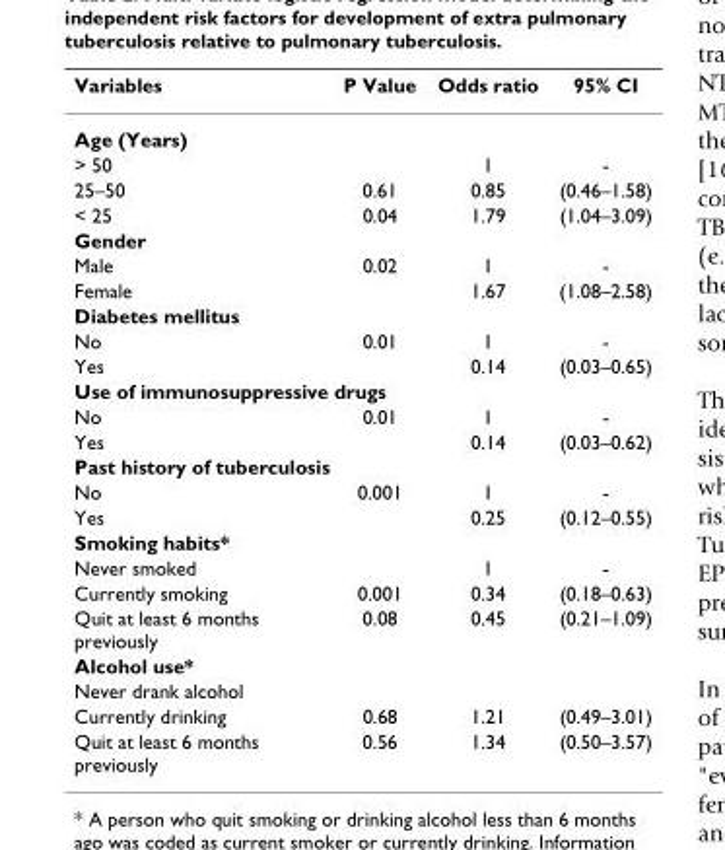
<table><thead><tr><td>Variables</td><td>P Value</td><td>Odds ratio</td><td>95% CI</td></tr></thead><tbody><tr><td colspan="4">Age (Years)</td></tr><tr><td>&gt; 50</td><td></td><td>1</td><td>-</td></tr><tr><td>25–50</td><td>0.61</td><td>0.85</td><td>(0.46–1.58)</td></tr><tr><td>&lt; 25</td><td>0.04</td><td>1.79</td><td>(1.04–3.09)</td></tr><tr><td colspan="4">Gender</td></tr><tr><td>Male</td><td>0.02</td><td>1</td><td>-</td></tr><tr><td>Female</td><td></td><td>1.67</td><td>(1.08–2.58)</td></tr><tr><td colspan="4">Diabetes mellitus</td></tr><tr><td>No</td><td>0.01</td><td>1</td><td>-</td></tr><tr><td>Yes</td><td></td><td>0.14</td><td>(0.03–0.65)</td></tr><tr><td colspan="4">Use of immunosuppressive drugs</td></tr><tr><td>No</td><td>0.01</td><td>1</td><td>-</td></tr><tr><td>Yes</td><td></td><td>0.14</td><td>(0.03–0.62)</td></tr><tr><td colspan="4">Past history of tuberculosis</td></tr><tr><td>No</td><td>0.001</td><td>1</td><td>-</td></tr><tr><td>Yes</td><td></td><td>0.25</td><td>(0.12–0.55)</td></tr><tr><td colspan="4">Smoking habits*</td></tr><tr><td>Never smoked</td><td></td><td>1</td><td>-</td></tr><tr><td>Currently smoking</td><td>0.001</td><td>0.34</td><td>(0.18–0.63)</td></tr><tr><td>Quit at least 6 months previously</td><td>0.08</td><td>0.45</td><td>(0.21–1.09)</td></tr><tr><td colspan="4">Alcohol use*</td></tr><tr><td colspan="4">Never drank alcohol</td></tr><tr><td>Currently drinking</td><td>0.68</td><td>1.21</td><td>(0.49–3.01)</td></tr><tr><td>Quit at least 6 months previously</td><td>0.56</td><td>1.34</td><td>(0.50–3.57)</td></tr></tbody></table>